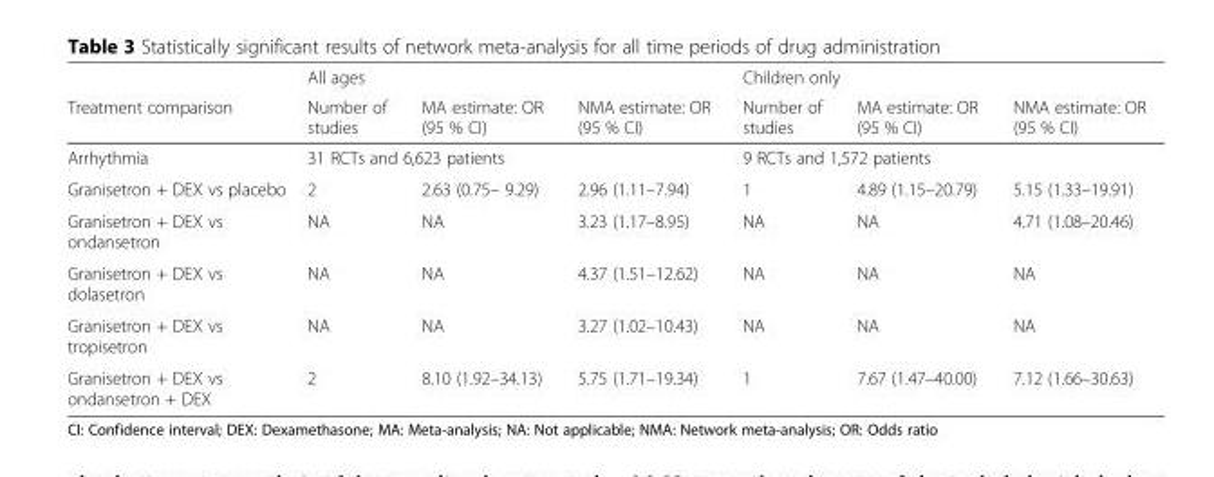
<table><thead><tr><td rowspan="2">Treatment comparison</td><td colspan="3">All ages</td><td colspan="3">Children only</td></tr><tr><td>Number of studies</td><td>MA estimate: OR (95 % CI)</td><td>NMA estimate: OR (95 % CI)</td><td>Number of studies</td><td>MA estimate: OR (95 % CI)</td><td>NMA estimate: OR (95 % CI)</td></tr></thead><tbody><tr><td>Arrhythmia</td><td colspan="3">31 RCTs and 6,623 patients</td><td colspan="3">9 RCTs and 1,572 patients</td></tr><tr><td>Granisetron + DEX vs placebo</td><td>2</td><td>2.63 (0.75– 9.29)</td><td>2.96 (1.11–7.94)</td><td>1</td><td>4.89 (1.15–20.79)</td><td>5.15 (1.33–19.91)</td></tr><tr><td>Granisetron + DEX vs ondansetron</td><td>NA</td><td>NA</td><td>3.23 (1.17–8.95)</td><td>NA</td><td>NA</td><td>4.71 (1.08–20.46)</td></tr><tr><td>Granisetron + DEX vs dolasetron</td><td>NA</td><td>NA</td><td>4.37 (1.51–12.62)</td><td>NA</td><td>NA</td><td>NA</td></tr><tr><td>Granisetron + DEX vs tropisetron</td><td>NA</td><td>NA</td><td>3.27 (1.02–10.43)</td><td>NA</td><td>NA</td><td>NA</td></tr><tr><td>Granisetron + DEX vs ondansetron + DEX</td><td>2</td><td>8.10 (1.92–34.13)</td><td>5.75 (1.71–19.34)</td><td>1</td><td>7.67 (1.47–40.00)</td><td>7.12 (1.66–30.63)</td></tr></tbody></table>